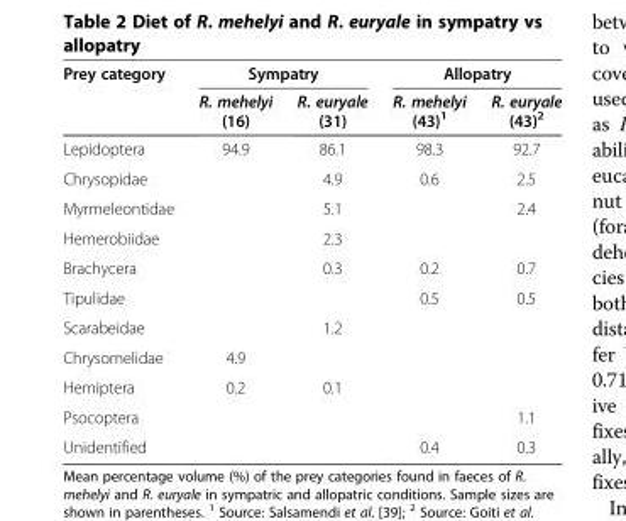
<table><thead><tr><td rowspan="2">Prey category</td><td colspan="2">Sympatry</td><td colspan="2">Allopatry</td></tr><tr><td>R. mehelyi (16)</td><td>R. euryale (31)</td><td>R. mehelyi (43)<sup>1</sup></td><td>R. euryale (43)<sup>2</sup></td></tr></thead><tbody><tr><td>Lepidoptera</td><td>94.9</td><td>86.1</td><td>98.3</td><td>92.7</td></tr><tr><td>Chrysopidae</td><td></td><td>4.9</td><td>0.6</td><td>2.5</td></tr><tr><td>Myrmeleontidae</td><td></td><td>5.1</td><td></td><td>2.4</td></tr><tr><td>Hemerobiidae</td><td></td><td>2.3</td><td></td><td></td></tr><tr><td>Brachycera</td><td></td><td>0.3</td><td>0.2</td><td>0.7</td></tr><tr><td>Tipulidae</td><td></td><td></td><td>0.5</td><td>0.5</td></tr><tr><td>Scarabeidae</td><td></td><td>1.2</td><td></td><td></td></tr><tr><td>Chrysomelidae</td><td>4.9</td><td></td><td></td><td></td></tr><tr><td>Hemiptera</td><td>0.2</td><td>0.1</td><td></td><td></td></tr><tr><td>Psocoptera</td><td></td><td></td><td></td><td>1.1</td></tr><tr><td>Unidentified</td><td></td><td></td><td>0.4</td><td>0.3</td></tr></tbody></table>